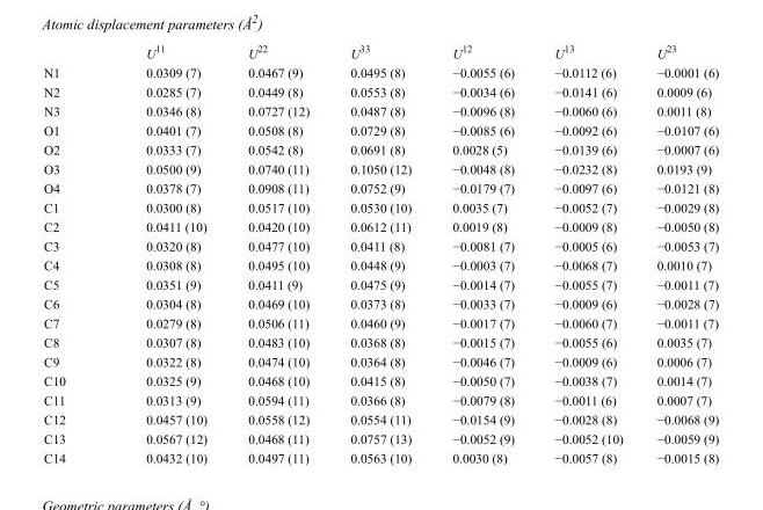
<table><thead><tr><td></td><td>U<sup>11</sup></td><td>U<sup>22</sup></td><td>U<sup>33</sup></td><td>U<sup>12</sup></td><td>U<sup>13</sup></td><td>U<sup>23</sup></td></tr></thead><tbody><tr><td>N1</td><td>0.0309 (7)</td><td>0.0467 (9)</td><td>0.0495 (8)</td><td>−0.0055 (6)</td><td>−0.0112 (6)</td><td>−0.0001 (6)</td></tr><tr><td>N2</td><td>0.0285 (7)</td><td>0.0449 (8)</td><td>0.0553 (8)</td><td>−0.0034 (6)</td><td>−0.0141 (6)</td><td>0.0009 (6)</td></tr><tr><td>N3</td><td>0.0346 (8)</td><td>0.0727 (12)</td><td>0.0487 (8)</td><td>−0.0096 (8)</td><td>−0.0060 (6)</td><td>0.0011 (8)</td></tr><tr><td>O1</td><td>0.0401 (7)</td><td>0.0508 (8)</td><td>0.0729 (8)</td><td>−0.0085 (6)</td><td>−0.0092 (6)</td><td>−0.0107 (6)</td></tr><tr><td>O2</td><td>0.0333 (7)</td><td>0.0542 (8)</td><td>0.0691 (8)</td><td>0.0028 (5)</td><td>−0.0139 (6)</td><td>−0.0007 (6)</td></tr><tr><td>O3</td><td>0.0500 (9)</td><td>0.0740 (11)</td><td>0.1050 (12)</td><td>−0.0048 (8)</td><td>−0.0232 (8)</td><td>0.0193 (9)</td></tr><tr><td>O4</td><td>0.0378 (7)</td><td>0.0908 (11)</td><td>0.0752 (9)</td><td>−0.0179 (7)</td><td>−0.0097 (6)</td><td>−0.0121 (8)</td></tr><tr><td>C1</td><td>0.0300 (8)</td><td>0.0517 (10)</td><td>0.0530 (10)</td><td>0.0035 (7)</td><td>−0.0052 (7)</td><td>−0.0029 (8)</td></tr><tr><td>C2</td><td>0.0411 (10)</td><td>0.0420 (10)</td><td>0.0612 (11)</td><td>0.0019 (8)</td><td>−0.0009 (8)</td><td>−0.0050 (8)</td></tr><tr><td>C3</td><td>0.0320 (8)</td><td>0.0477 (10)</td><td>0.0411 (8)</td><td>−0.0081 (7)</td><td>−0.0005 (6)</td><td>−0.0053 (7)</td></tr><tr><td>C4</td><td>0.0308 (8)</td><td>0.0495 (10)</td><td>0.0448 (9)</td><td>−0.0003 (7)</td><td>−0.0068 (7)</td><td>0.0010 (7)</td></tr><tr><td>C5</td><td>0.0351 (9)</td><td>0.0411 (9)</td><td>0.0475 (9)</td><td>−0.0014 (7)</td><td>−0.0055 (7)</td><td>−0.0011 (7)</td></tr><tr><td>C6</td><td>0.0304 (8)</td><td>0.0469 (10)</td><td>0.0373 (8)</td><td>−0.0033 (7)</td><td>−0.0009 (6)</td><td>−0.0028 (7)</td></tr><tr><td>C7</td><td>0.0279 (8)</td><td>0.0506 (11)</td><td>0.0460 (9)</td><td>−0.0017 (7)</td><td>−0.0060 (7)</td><td>−0.0011 (7)</td></tr><tr><td>C8</td><td>0.0307 (8)</td><td>0.0483 (10)</td><td>0.0368 (8)</td><td>−0.0015 (7)</td><td>−0.0055 (6)</td><td>0.0035 (7)</td></tr><tr><td>C9</td><td>0.0322 (8)</td><td>0.0474 (10)</td><td>0.0364 (8)</td><td>−0.0046 (7)</td><td>−0.0009 (6)</td><td>0.0006 (7)</td></tr><tr><td>C10</td><td>0.0325 (9)</td><td>0.0468 (10)</td><td>0.0415 (8)</td><td>−0.0050 (7)</td><td>−0.0038 (7)</td><td>0.0014 (7)</td></tr><tr><td>C11</td><td>0.0313 (9)</td><td>0.0594 (11)</td><td>0.0366 (8)</td><td>−0.0079 (8)</td><td>−0.0011 (6)</td><td>0.0007 (7)</td></tr><tr><td>C12</td><td>0.0457 (10)</td><td>0.0558 (12)</td><td>0.0554 (11)</td><td>−0.0154 (9)</td><td>−0.0028 (8)</td><td>−0.0068 (9)</td></tr><tr><td>C13</td><td>0.0567 (12)</td><td>0.0468 (11)</td><td>0.0757 (13)</td><td>−0.0052 (9)</td><td>−0.0052 (10)</td><td>−0.0059 (9)</td></tr><tr><td>C14</td><td>0.0432 (10)</td><td>0.0497 (11)</td><td>0.0563 (10)</td><td>0.0030 (8)</td><td>−0.0057 (8)</td><td>−0.0015 (8)</td></tr></tbody></table>